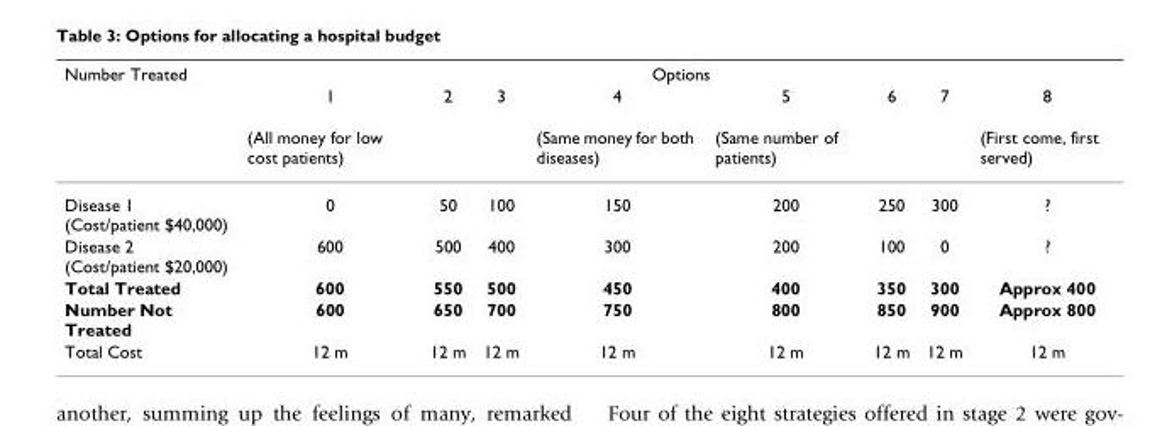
<table><thead><tr><td rowspan="3">Number Treated</td><td colspan="8">Options</td></tr><tr><td rowspan="2">1 (All money for low cost patients)</td><td rowspan="2">2</td><td rowspan="2">3</td><td rowspan="2">4 (Same money for both diseases)</td><td rowspan="2">5 (Same number of patients)</td><td rowspan="2">6</td><td rowspan="2">7</td><td rowspan="2">8 (First come, first served)</td></tr><tr></tr></thead><tbody><tr><td>Disease 1 (Cost/patient $40,000)</td><td>0</td><td>50</td><td>100</td><td>150</td><td>200</td><td>250</td><td>300</td><td>?</td></tr><tr><td>Disease 2 (Cost/patient $20,000)</td><td>600</td><td>500</td><td>400</td><td>300</td><td>200</td><td>100</td><td>0</td><td>?</td></tr><tr><td>Total Treated</td><td>600</td><td>550</td><td>500</td><td>450</td><td>400</td><td>350</td><td>300</td><td>Approx 400</td></tr><tr><td>Number Not Treated</td><td>600</td><td>650</td><td>700</td><td>750</td><td>800</td><td>850</td><td>900</td><td>Approx 800</td></tr><tr><td>Total Cost</td><td>12 m</td><td>12 m</td><td>12 m</td><td>12 m</td><td>12 m</td><td>12 m</td><td>12 m</td><td>12 m</td></tr></tbody></table>